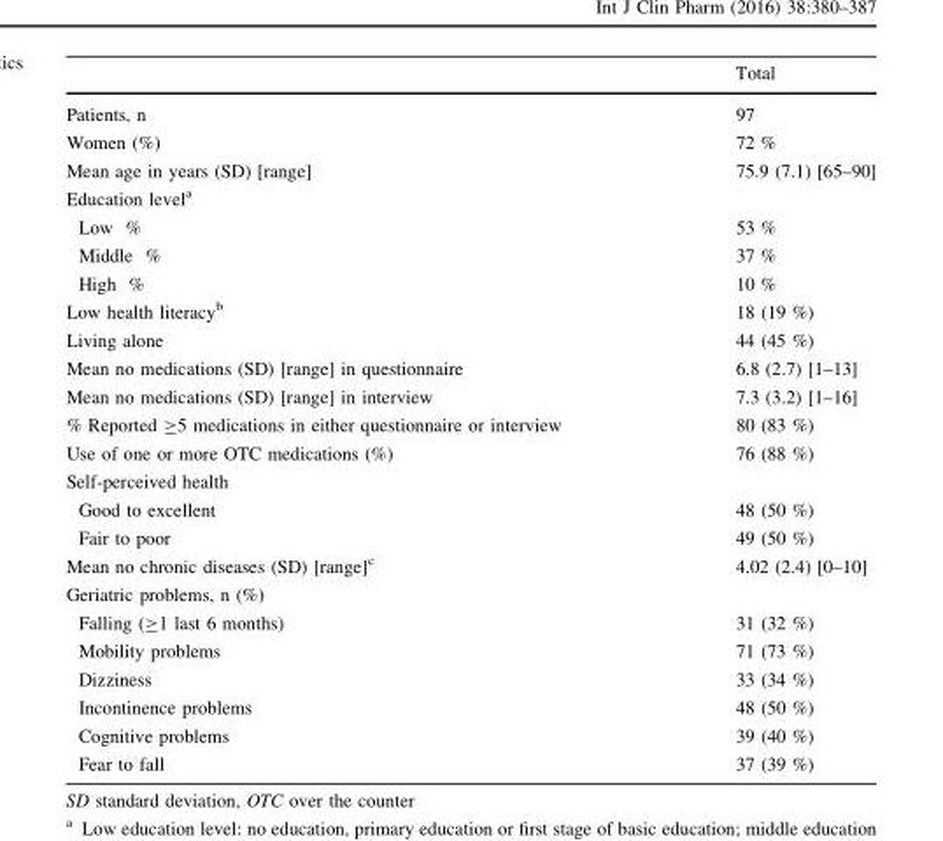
<table><thead><tr><td></td><td>Total</td></tr></thead><tbody><tr><td>Patients, n</td><td>97</td></tr><tr><td>Women (%)</td><td>72 %</td></tr><tr><td>Mean age in years (SD) [range]</td><td>75.9 (7.1) [65–90]</td></tr><tr><td colspan="2">Education level<sup>a</sup></td></tr><tr><td>Low %</td><td>53 %</td></tr><tr><td>Middle %</td><td>37 %</td></tr><tr><td>High %</td><td>10 %</td></tr><tr><td>Low health literacy<sup>b</sup></td><td>18 (19 %)</td></tr><tr><td>Living alone</td><td>44 (45 %)</td></tr><tr><td>Mean no medications (SD) [range] in questionnaire</td><td>6.8 (2.7) [1–13]</td></tr><tr><td>Mean no medications (SD) [range] in interview</td><td>7.3 (3.2) [1–16]</td></tr><tr><td>% Reported ≥5 medications in either questionnaire or interview</td><td>80 (83 %)</td></tr><tr><td>Use of one or more OTC medications (%)</td><td>76 (88 %)</td></tr><tr><td colspan="2">Self-perceived health</td></tr><tr><td>Good to excellent</td><td>48 (50 %)</td></tr><tr><td>Fair to poor</td><td>49 (50 %)</td></tr><tr><td>Mean no chronic diseases (SD) [range]<sup>c</sup></td><td>4.02 (2.4) [0–10]</td></tr><tr><td colspan="2">Geriatric problems, n (%)</td></tr><tr><td>Falling (≥1 last 6 months)</td><td>31 (32 %)</td></tr><tr><td>Mobility problems</td><td>71 (73 %)</td></tr><tr><td>Dizziness</td><td>33 (34 %)</td></tr><tr><td>Incontinence problems</td><td>48 (50 %)</td></tr><tr><td>Cognitive problems</td><td>39 (40 %)</td></tr><tr><td>Fear to fall</td><td>37 (39 %)</td></tr></tbody></table>